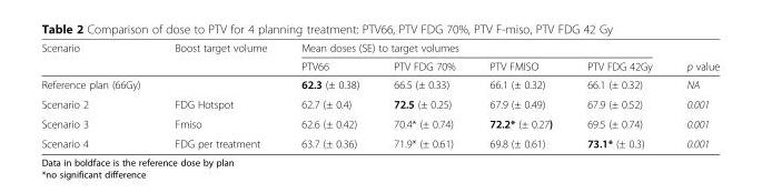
<table><thead><tr><td rowspan="2">Scenario</td><td rowspan="2">Boost target volume</td><td colspan="4">Mean doses (SE) to target volumes</td><td rowspan="2">p value</td></tr><tr><td>PTV66</td><td>PTV FDG 70%</td><td>PTV FMISO</td><td>PTV FDG 42Gy</td></tr></thead><tbody><tr><td>Reference plan (66Gy)</td><td></td><td>62.3 (± 0.38)</td><td>66.5 (± 0.33)</td><td>66.1 (± 0.32)</td><td>66.1 (± 0.32)</td><td>NA</td></tr><tr><td>Scenario 2</td><td>FDG Hotspot</td><td>62.7 (± 0.4)</td><td>72.5 (± 0.25)</td><td>67.9 (± 0.49)</td><td>67.9 (± 0.52)</td><td>0.001</td></tr><tr><td>Scenario 3</td><td>Fmiso</td><td>62.6 (± 0.42)</td><td>70.4* (± 0.74)</td><td>72.2* (± 0.27)</td><td>69.5 (± 0.74)</td><td>0.001</td></tr><tr><td>Scenario 4</td><td>FDG per treatment</td><td>63.7 (± 0.36)</td><td>71.9* (± 0.61)</td><td>69.8 (± 0.61)</td><td>73.1* (± 0.3)</td><td>0.001</td></tr></tbody></table>